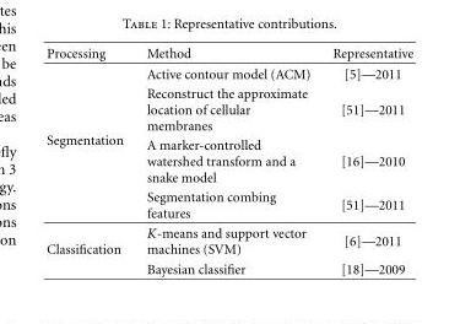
<table><thead><tr><td>Processing</td><td>Method</td><td>Representative</td></tr></thead><tbody><tr><td rowspan="4">Segmentation</td><td>Active contour model (ACM)</td><td>[5]—2011</td></tr><tr><td>Reconstruct the approximate location of cellular membranes</td><td>[51]—2011</td></tr><tr><td>A marker-controlled watershed transform and a snake model</td><td>[16]—2010</td></tr><tr><td>Segmentation combing features</td><td>[51]—2011</td></tr><tr><td rowspan="2">Classification</td><td>K-means and support vector machines (SVM)</td><td>[6]—2011</td></tr><tr><td>Bayesian classifier</td><td>[18]—2009</td></tr></tbody></table>